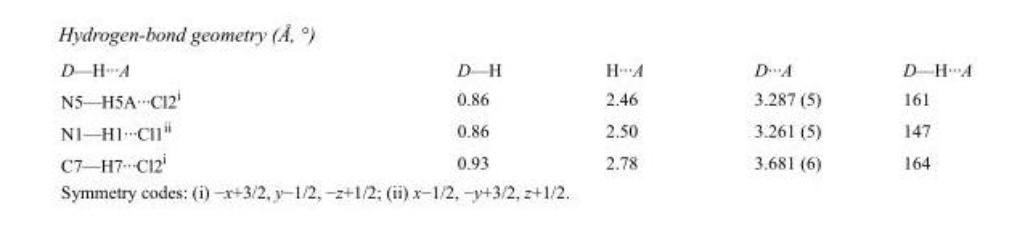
<table><tbody><tr><td>D—H···A</td><td>D—H</td><td>H···A</td><td>D···A</td><td>D—H···A</td></tr><tr><td>N5—H5A···Cl2<sup>i</sup></td><td>0.86</td><td>2.46</td><td>3.287 (5)</td><td>161</td></tr><tr><td>N1—H1···Cl1<sup>ii</sup></td><td>0.86</td><td>2.50</td><td>3.261 (5)</td><td>147</td></tr><tr><td>C7—H7···Cl2<sup>i</sup></td><td>0.93</td><td>2.78</td><td>3.681 (6)</td><td>164</td></tr></tbody></table>